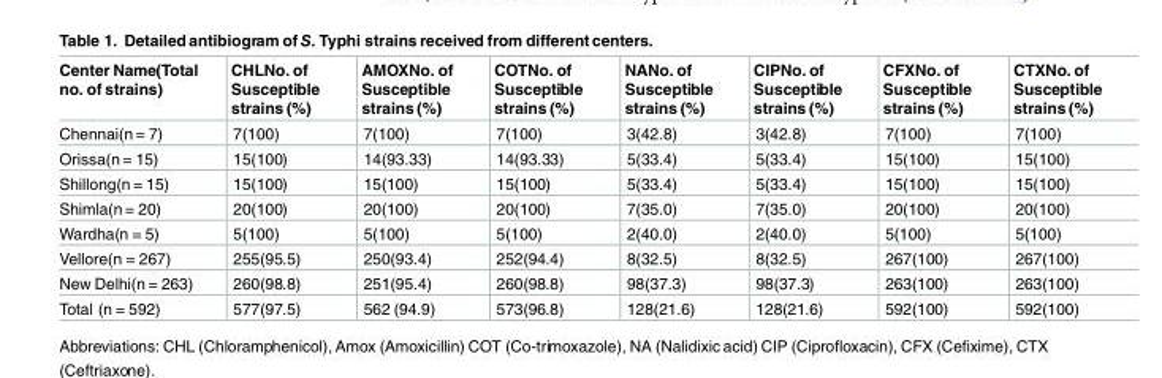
<table><thead><tr><td>Center Name(Total no. of strains)</td><td>CHLNo. of Susceptible strains (%)</td><td>AMOXNo. of Susceptible strains (%)</td><td>COTNo. of Susceptible strains (%)</td><td>NANo. of Susceptible strains (%)</td><td>CIPNo. of Susceptible strains (%)</td><td>CFXNo. of Susceptible strains (%)</td><td>CTXNo. of Susceptible strains (%)</td></tr></thead><tbody><tr><td>Chennai(n = 7)</td><td>7(100)</td><td>7(100)</td><td>7(100)</td><td>3(42.8)</td><td>3(42.8)</td><td>7(100)</td><td>7(100)</td></tr><tr><td>Orissa(n = 15)</td><td>15(100)</td><td>14(93.33)</td><td>14(93.33)</td><td>5(33.4)</td><td>5(33.4)</td><td>15(100)</td><td>15(100)</td></tr><tr><td>Shillong(n = 15)</td><td>15(100)</td><td>15(100)</td><td>15(100)</td><td>5(33.4)</td><td>5(33.4)</td><td>15(100)</td><td>15(100)</td></tr><tr><td>Shimla(n = 20)</td><td>20(100)</td><td>20(100)</td><td>20(100)</td><td>7(35.0)</td><td>7(35.0)</td><td>20(100)</td><td>20(100)</td></tr><tr><td>Wardha(n = 5)</td><td>5(100)</td><td>5(100)</td><td>5(100)</td><td>2(40.0)</td><td>2(40.0)</td><td>5(100)</td><td>5(100)</td></tr><tr><td>Vellore(n = 267)</td><td>255(95.5)</td><td>250(93.4)</td><td>252(94.4)</td><td>8(32.5)</td><td>8(32.5)</td><td>267(100)</td><td>267(100)</td></tr><tr><td>New Delhi(n = 263)</td><td>260(98.8)</td><td>251(95.4)</td><td>260(98.8)</td><td>98(37.3)</td><td>98(37.3)</td><td>263(100)</td><td>263(100)</td></tr><tr><td>Total (n = 592)</td><td>577(97.5)</td><td>562 (94.9)</td><td>573(96.8)</td><td>128(21.6)</td><td>128(21.6)</td><td>592(100)</td><td>592(100)</td></tr></tbody></table>